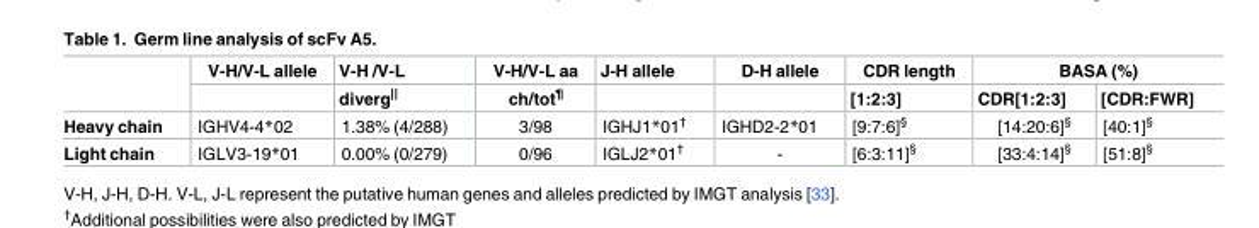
<table><thead><tr><td rowspan="2"></td><td rowspan="2">V-H/V-L allele</td><td rowspan="2">V-H /V-L diverg<sup>||</sup></td><td rowspan="2">V-H/V-L aa ch/tot<sup>¶</sup></td><td rowspan="2">J-H allele</td><td rowspan="2">D-H allele</td><td rowspan="2">CDR length [1:2:3]</td><td colspan="2">BASA (%)</td></tr><tr><td>CDR[1:2:3]</td><td>[CDR:FWR]</td></tr></thead><tbody><tr><td>Heavy chain</td><td>IGHV4-4*02</td><td>1.38% (4/288)</td><td>3/98</td><td>IGHJ1*01<sup>†</sup></td><td>IGHD2-2*01</td><td>[9:7:6]<sup>§</sup></td><td>[14:20:6]<sup>§</sup></td><td>[40:1]<sup>§</sup></td></tr><tr><td>Light chain</td><td>IGLV3-19*01</td><td>0.00% (0/279)</td><td>0/96</td><td>IGLJ2*01<sup>†</sup></td><td>-</td><td>[6:3:11]<sup>§</sup></td><td>[33:4:14]<sup>§</sup></td><td>[51:8]<sup>§</sup></td></tr></tbody></table>